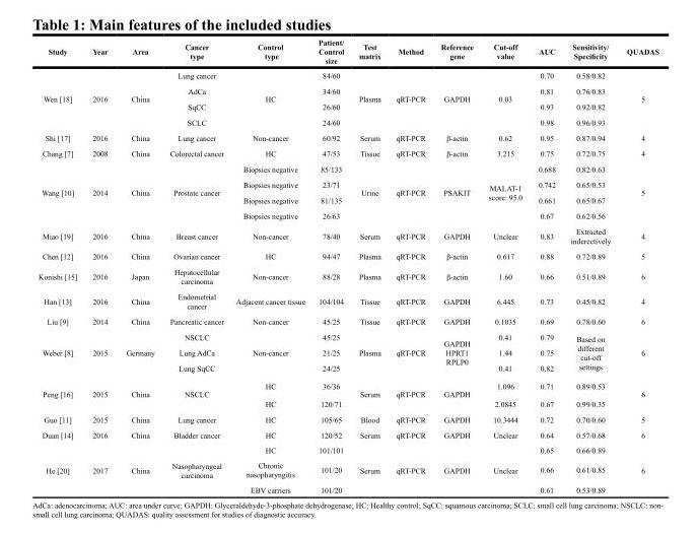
<table><thead><tr><td>Study</td><td>Year</td><td>Area</td><td>Cancer type</td><td>Control type</td><td>Patient/ Control size</td><td>Test matrix</td><td>Method</td><td>Reference gene</td><td>Cut-off value</td><td>AUC</td><td>Sensitivity/ Specificity</td><td>QUADAS</td></tr></thead><tbody><tr><td rowspan="4">Wen [18]</td><td rowspan="4">2016</td><td rowspan="4">China</td><td>Lung cancer</td><td rowspan="4">HC</td><td>84/60</td><td rowspan="4">Plasma</td><td rowspan="4">qRT-PCR</td><td rowspan="4">GAPDH</td><td rowspan="4">0.03</td><td>0.70</td><td>0.58/0.82</td><td rowspan="4">5</td></tr><tr><td>AdCa</td><td>34/60</td><td>0.81</td><td>0.76/0.83</td></tr><tr><td>SqCC</td><td>26/60</td><td>0.93</td><td>0.92/0.82</td></tr><tr><td>SCLC</td><td>24/60</td><td>0.98</td><td>0.96/0.93</td></tr><tr><td>Shi [17]</td><td>2016</td><td>China</td><td>Lung cancer</td><td>Non-cancer</td><td>60/92</td><td>Serum</td><td>qRT-PCR</td><td>β-actin</td><td>0.62</td><td>0.95</td><td>0.87/0.94</td><td>4</td></tr><tr><td>Chang [7]</td><td>2008</td><td>China</td><td>Colorectal cancer</td><td>HC</td><td>47/53</td><td>Tissue</td><td>qRT-PCR</td><td>β-actin</td><td>3.215</td><td>0.75</td><td>0.72/0.75</td><td>4</td></tr><tr><td rowspan="4">Wang [10]</td><td rowspan="4">2014</td><td rowspan="4">China</td><td rowspan="4">Prostate cancer</td><td>Biopsies negative</td><td>85/133</td><td rowspan="4">Urine</td><td rowspan="4">qRT-PCR</td><td rowspan="4">PSAKIT</td><td rowspan="4">MALAT-1 score: 95.0</td><td>0.688</td><td>0.82/0.63</td><td rowspan="4">5</td></tr><tr><td>Biopsies negative</td><td>23/71</td><td>0.742</td><td>0.65/0.53</td></tr><tr><td>Biopsies negative</td><td>81/135</td><td>0.661</td><td>0.65/0.67</td></tr><tr><td>Biopsies negative</td><td>26/63</td><td>0.67</td><td>0.62/0.56</td></tr><tr><td>Miao [19]</td><td>2016</td><td>China</td><td>Breast cancer</td><td>Non-cancer</td><td>78/40</td><td>Serum</td><td>qRT-PCR</td><td>GAPDH</td><td>Unclear</td><td>0.83</td><td>Extracted inderectively</td><td>4</td></tr><tr><td>Chen [12]</td><td>2016</td><td>China</td><td>Ovarian cancer</td><td>HC</td><td>94/47</td><td>Plasma</td><td>qRT-PCR</td><td>β-actin</td><td>0.617</td><td>0.88</td><td>0.72/0.89</td><td>5</td></tr><tr><td>Konishi [15]</td><td>2016</td><td>Japan</td><td>Hepatocellular carcinoma</td><td>Non-cancer</td><td>88/28</td><td>Plasma</td><td>qRT-PCR</td><td>β-actin</td><td>1.60</td><td>0.66</td><td>0.51/0.89</td><td>6</td></tr><tr><td>Han [13]</td><td>2016</td><td>China</td><td>Endometrial cancer</td><td>Adjacent cancer tissue</td><td>104/104</td><td>Tissue</td><td>qRT-PCR</td><td>GAPDH</td><td>6.445</td><td>0.73</td><td>0.45/0.82</td><td>4</td></tr><tr><td>Liu [9]</td><td>2014</td><td>China</td><td>Pancreatic cancer</td><td>Non-cancer</td><td>45/25</td><td>Tissue</td><td>qRT-PCR</td><td>GAPDH</td><td>0.1035</td><td>0.69</td><td>0.78/0.60</td><td>6</td></tr><tr><td rowspan="3">Weber [8]</td><td rowspan="3">2015</td><td rowspan="3">Germany</td><td>NSCLC</td><td rowspan="3">Non-cancer</td><td>45/25</td><td rowspan="3">Plasma</td><td rowspan="3">qRT-PCR</td><td rowspan="3">GAPDH HPRT1 RPLP0</td><td>0.41</td><td>0.79</td><td rowspan="3">Based on different cut-off settings</td><td rowspan="3">6</td></tr><tr><td>Lung AdCa</td><td>21/25</td><td>1.44</td><td>0.75</td></tr><tr><td>Lung SqCC</td><td>24/25</td><td>0.41</td><td>0.82</td></tr><tr><td rowspan="2">Peng [16]</td><td rowspan="2">2015</td><td rowspan="2">China</td><td rowspan="2">NSCLC</td><td>HC</td><td>36/36</td><td rowspan="2">Serum</td><td rowspan="2">qRT-PCR</td><td rowspan="2">GAPDH</td><td>1.096</td><td>0.71</td><td>0.89/0.53</td><td rowspan="2">6</td></tr><tr><td>HC</td><td>120/71</td><td>2.0845</td><td>0.67</td><td>0.99/0.35</td></tr><tr><td>Guo [11]</td><td>2015</td><td>China</td><td>Lung cancer</td><td>HC</td><td>105/65</td><td>Blood</td><td>qRT-PCR</td><td>GAPDH</td><td>10.3444</td><td>0.72</td><td>0.70/0.60</td><td>5</td></tr><tr><td>Duan [14]</td><td>2016</td><td>China</td><td>Bladder cancer</td><td>HC</td><td>120/52</td><td>Serum</td><td>qRT-PCR</td><td>GAPDH</td><td>Unclear</td><td>0.64</td><td>0.57/0.68</td><td>6</td></tr><tr><td rowspan="3">He [20]</td><td rowspan="3">2017</td><td rowspan="3">China</td><td rowspan="3">Nasopharyngeal carcinoma</td><td>HC</td><td>101/101</td><td rowspan="3">Serum</td><td rowspan="3">qRT-PCR</td><td rowspan="3">GAPDH</td><td rowspan="3">Unclear</td><td>0.65</td><td>0.66/0.89</td><td rowspan="3">6</td></tr><tr><td>Chronic nasopharyngitis</td><td>101/20</td><td>0.66</td><td>0.61/0.85</td></tr><tr><td>EBV carriers</td><td>101/20</td><td>0.61</td><td>0.53/0.89</td></tr></tbody></table>